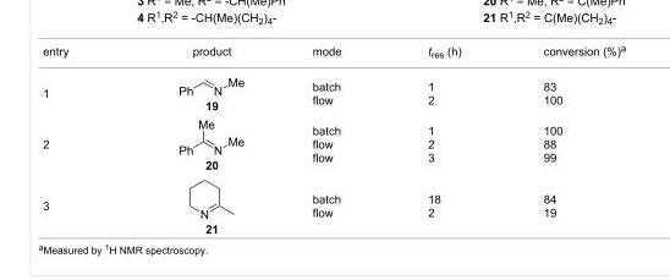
<table><tbody><tr><td>entry</td><td>product</td><td>mode</td><td>t<sub>res</sub> (h)</td><td>conversion (%)<sup>a</sup></td></tr><tr><td>1</td><td>19</td><td>batch flow</td><td>1 2</td><td>83 100</td></tr><tr><td>2</td><td>20</td><td>batch flow flow</td><td>1 2 3</td><td>100 88 99</td></tr><tr><td>3</td><td>21</td><td>batch flow</td><td>18 2</td><td>84 19</td></tr></tbody></table>